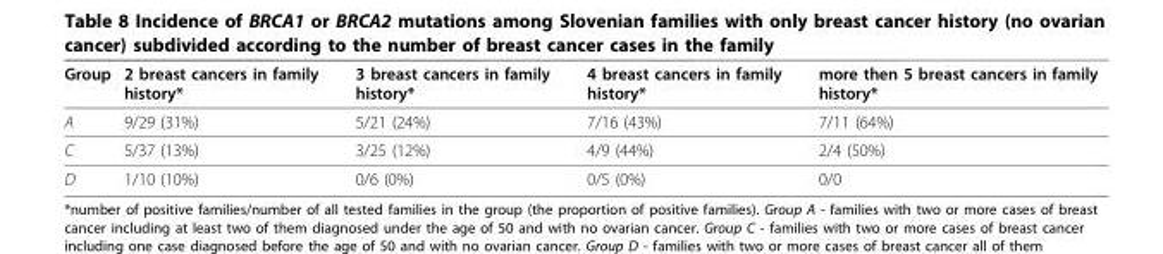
<table><thead><tr><td>Group</td><td>2 breast cancers in family history*</td><td>3 breast cancers in family history*</td><td>4 breast cancers in family history*</td><td>more then 5 breast cancers in family history*</td></tr></thead><tbody><tr><td>A</td><td>9/29 (31%)</td><td>5/21 (24%)</td><td>7/16 (43%)</td><td>7/11 (64%)</td></tr><tr><td>C</td><td>5/37 (13%)</td><td>3/25 (12%)</td><td>4/9 (44%)</td><td>2/4 (50%)</td></tr><tr><td>D</td><td>1/10 (10%)</td><td>0/6 (0%)</td><td>0/5 (0%)</td><td>0/0</td></tr></tbody></table>